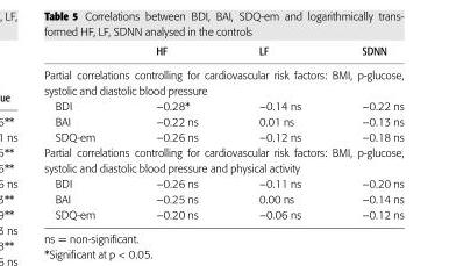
<table><thead><tr><td></td><td>HF</td><td>LF</td><td>SDNN</td></tr></thead><tbody><tr><td colspan="4">Partial correlations controlling for cardiovascular risk factors: BMI, p-glucose, systolic and diastolic blood pressure</td></tr><tr><td>BDI</td><td>−0.28*</td><td>−0.14 ns</td><td>−0.22 ns</td></tr><tr><td>BAI</td><td>−0.22 ns</td><td>0.01 ns</td><td>−0.13 ns</td></tr><tr><td>SDQ-em</td><td>−0.26 ns</td><td>−0.12 ns</td><td>−0.18 ns</td></tr><tr><td colspan="4">Partial correlations controlling for cardiovascular risk factors: BMI, p-glucose, systolic and diastolic blood pressure and physical activity</td></tr><tr><td>BDI</td><td>−0.26 ns</td><td>−0.11 ns</td><td>−0.20 ns</td></tr><tr><td>BAI</td><td>−0.25 ns</td><td>0.00 ns</td><td>−0.14 ns</td></tr><tr><td>SDQ-em</td><td>−0.20 ns</td><td>−0.06 ns</td><td>−0.12 ns</td></tr></tbody></table>